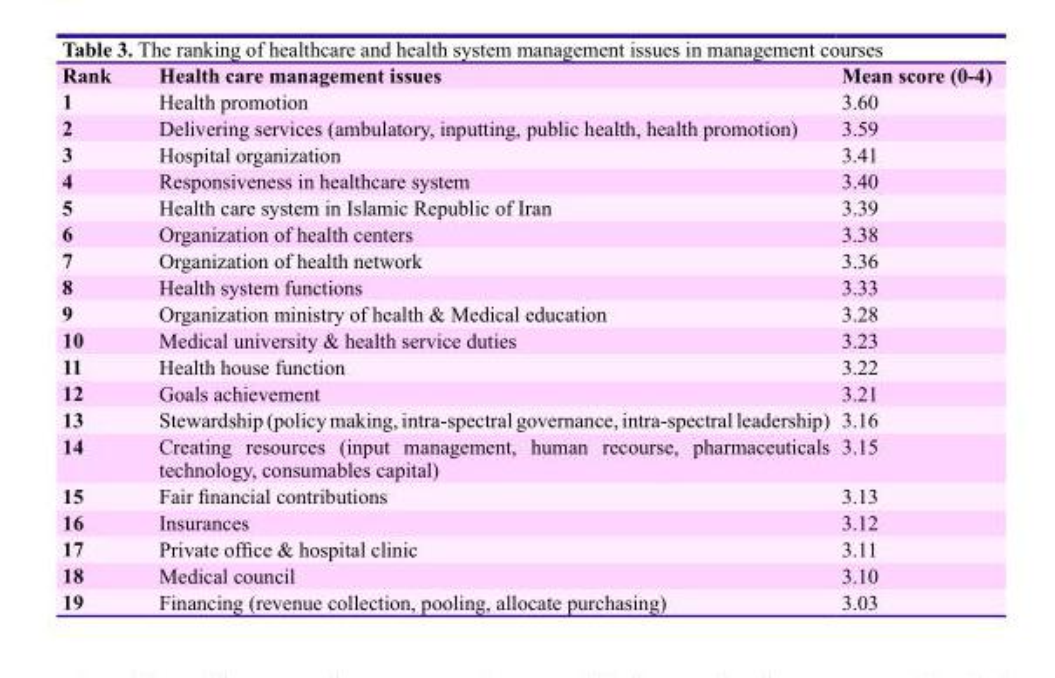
<table><thead><tr><td>Rank</td><td>Health care management issues</td><td>Mean score (0-4)</td></tr></thead><tbody><tr><td>1</td><td>Health promotion</td><td>3.60</td></tr><tr><td>2</td><td>Delivering services (ambulatory, inputting, public health, health promotion)</td><td>3.59</td></tr><tr><td>3</td><td>Hospital organization</td><td>3.41</td></tr><tr><td>4</td><td>Responsiveness in healthcare system</td><td>3.40</td></tr><tr><td>5</td><td>Health care system in Islamic Republic of Iran</td><td>3.39</td></tr><tr><td>6</td><td>Organization of health centers</td><td>3.38</td></tr><tr><td>7</td><td>Organization of health network</td><td>3.36</td></tr><tr><td>8</td><td>Health system functions</td><td>3.33</td></tr><tr><td>9</td><td>Organization ministry of health &amp; Medical education</td><td>3.28</td></tr><tr><td>10</td><td>Medical university &amp; health service duties</td><td>3.23</td></tr><tr><td>11</td><td>Health house function</td><td>3.22</td></tr><tr><td>12</td><td>Goals achievement</td><td>3.21</td></tr><tr><td>13</td><td>Stewardship (policy making, intra-spectral governance, intra-spectral leadership)</td><td>3.16</td></tr><tr><td>14</td><td>Creating resources (input management, human recourse, pharmaceuticals technology, consumables capital)</td><td>3.15</td></tr><tr><td>15</td><td>Fair financial contributions</td><td>3.13</td></tr><tr><td>16</td><td>Insurances</td><td>3.12</td></tr><tr><td>17</td><td>Private office &amp; hospital clinic</td><td>3.11</td></tr><tr><td>18</td><td>Medical council</td><td>3.10</td></tr><tr><td>19</td><td>Financing (revenue collection, pooling, allocate purchasing)</td><td>3.03</td></tr></tbody></table>